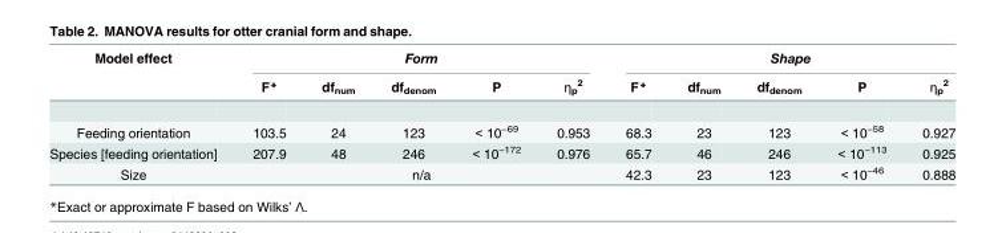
<table><thead><tr><td rowspan="2">Model effect</td><td colspan="5">Form</td><td colspan="5">Shape</td></tr><tr><td>F*</td><td>df<sub>num</sub></td><td>df<sub>denom</sub></td><td>P</td><td>ƞ<sub>p</sub> <sup>2</sup></td><td>F*</td><td>df<sub>num</sub></td><td>df<sub>denom</sub></td><td>P</td><td>ƞ<sub>p</sub> <sup>2</sup></td></tr></thead><tbody><tr><td>Feeding orientation</td><td>103.5</td><td>24</td><td>123</td><td>&lt; 10<sup>−69</sup></td><td>0.953</td><td>68.3</td><td>23</td><td>123</td><td>&lt; 10<sup>−58</sup></td><td>0.927</td></tr><tr><td>Species [feeding orientation]</td><td>207.9</td><td>48</td><td>246</td><td>&lt; 10<sup>−172</sup></td><td>0.976</td><td>65.7</td><td>46</td><td>246</td><td>&lt; 10<sup>−113</sup></td><td>0.925</td></tr><tr><td>Size</td><td colspan="5">n/a</td><td>42.3</td><td>23</td><td>123</td><td>&lt; 10<sup>−46</sup></td><td>0.888</td></tr></tbody></table>